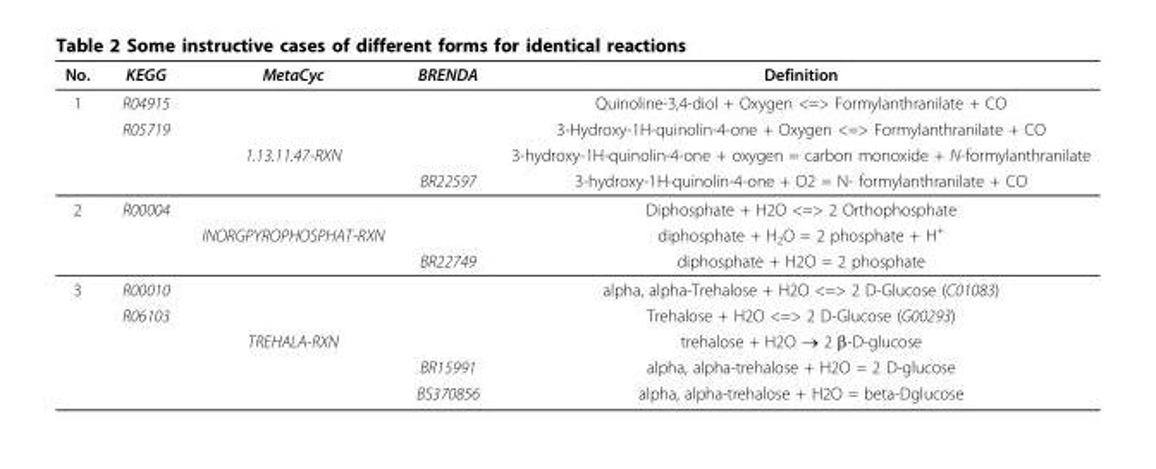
<table><thead><tr><td>No.</td><td>KEGG</td><td>MetaCyc</td><td>BRENDA</td><td>Definition</td></tr></thead><tbody><tr><td rowspan="4">1</td><td>R04915</td><td></td><td></td><td>Quinoline-3,4-diol + Oxygen &lt;=&gt; Formylanthranilate + CO</td></tr><tr><td>R05719</td><td></td><td></td><td>3-Hydroxy-1H-quinolin-4-one + Oxygen &lt;=&gt; Formylanthranilate + CO</td></tr><tr><td></td><td>1.13.11.47-RXN</td><td></td><td>3-hydroxy-1H-quinolin-4-one + oxygen = carbon monoxide + N-formylanthranilate</td></tr><tr><td></td><td></td><td>BR22597</td><td>3-hydroxy-1H-quinolin-4-one + O2 = N- formylanthranilate + CO</td></tr><tr><td rowspan="3">2</td><td>R00004</td><td></td><td></td><td>Diphosphate + H2O &lt;=&gt; 2 Orthophosphate</td></tr><tr><td></td><td>INORGPYROPHOSPHAT-RXN</td><td></td><td>diphosphate + H<sub>2</sub>O = 2 phosphate + H<sup>+</sup></td></tr><tr><td></td><td></td><td>BR22749</td><td>diphosphate + H2O = 2 phosphate</td></tr><tr><td rowspan="5">3</td><td>R00010</td><td></td><td></td><td>alpha, alpha-Trehalose + H2O &lt;=&gt; 2 D-Glucose (C01083)</td></tr><tr><td>R06103</td><td></td><td></td><td>Trehalose + H2O &lt;=&gt; 2 D-Glucose (G00293)</td></tr><tr><td></td><td>TREHALA-RXN</td><td></td><td>trehalose + H2O → 2 β-D-glucose</td></tr><tr><td></td><td></td><td>BR15991</td><td>alpha, alpha-trehalose + H2O = 2 D-glucose</td></tr><tr><td></td><td></td><td>BS370856</td><td>alpha, alpha-trehalose + H2O = beta-Dglucose</td></tr></tbody></table>